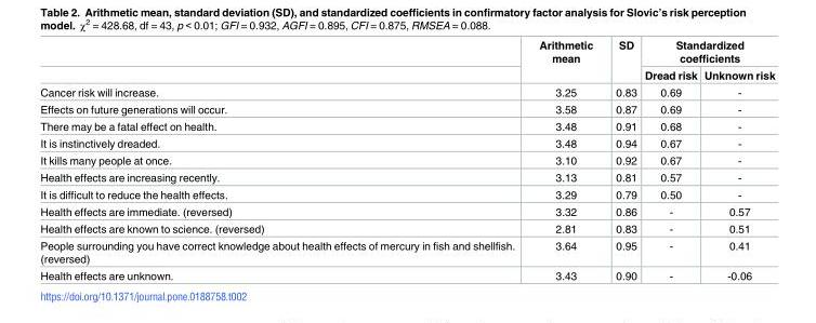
<table><thead><tr><td rowspan="2"></td><td rowspan="2">Arithmetic mean</td><td rowspan="2">SD</td><td colspan="2">Standardized coefficients</td></tr><tr><td>Dread risk</td><td>Unknown risk</td></tr></thead><tbody><tr><td>Cancer risk will increase.</td><td>3.25</td><td>0.83</td><td>0.69</td><td>-</td></tr><tr><td>Effects on future generations will occur.</td><td>3.58</td><td>0.87</td><td>0.69</td><td>-</td></tr><tr><td>There may be a fatal effect on health.</td><td>3.48</td><td>0.91</td><td>0.68</td><td>-</td></tr><tr><td>It is instinctively dreaded.</td><td>3.48</td><td>0.94</td><td>0.67</td><td>-</td></tr><tr><td>It kills many people at once.</td><td>3.10</td><td>0.92</td><td>0.67</td><td>-</td></tr><tr><td>Health effects are increasing recently.</td><td>3.13</td><td>0.81</td><td>0.57</td><td>-</td></tr><tr><td>It is difficult to reduce the health effects.</td><td>3.29</td><td>0.79</td><td>0.50</td><td>-</td></tr><tr><td>Health effects are immediate. (reversed)</td><td>3.32</td><td>0.86</td><td>-</td><td>0.57</td></tr><tr><td>Health effects are known to science. (reversed)</td><td>2.81</td><td>0.83</td><td>-</td><td>0.51</td></tr><tr><td>People surrounding you have correct knowledge about health effects of mercury in fish and shellfish. (reversed)</td><td>3.64</td><td>0.95</td><td>-</td><td>0.41</td></tr><tr><td>Health effects are unknown.</td><td>3.43</td><td>0.90</td><td>-</td><td>-0.06</td></tr></tbody></table>